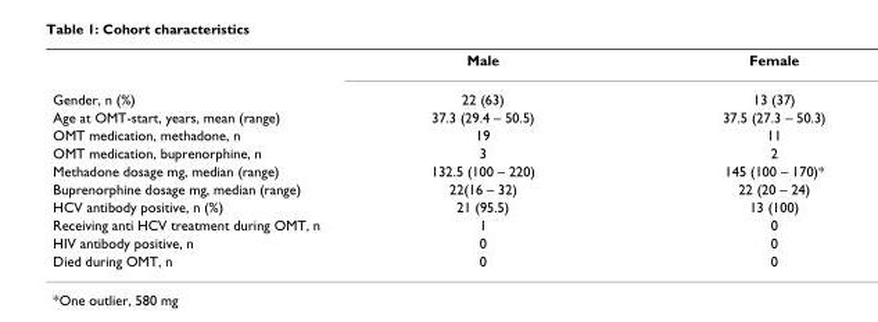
<table><thead><tr><td></td><td>Male</td><td>Female</td></tr></thead><tbody><tr><td>Gender, n (%)</td><td>22 (63)</td><td>13 (37)</td></tr><tr><td>Age at OMT-start, years, mean (range)</td><td>37.3 (29.4 – 50.5)</td><td>37.5 (27.3 – 50.3)</td></tr><tr><td>OMT medication, methadone, n</td><td>19</td><td>11</td></tr><tr><td>OMT medication, buprenorphine, n</td><td>3</td><td>2</td></tr><tr><td>Methadone dosage mg, median (range)</td><td>132.5 (100 – 220)</td><td>145 (100 – 170)*</td></tr><tr><td>Buprenorphine dosage mg, median (range)</td><td>22(16 – 32)</td><td>22 (20 – 24)</td></tr><tr><td>HCV antibody positive, n (%)</td><td>21 (95.5)</td><td>13 (100)</td></tr><tr><td>Receiving anti HCV treatment during OMT, n</td><td>1</td><td>0</td></tr><tr><td>HIV antibody positive, n</td><td>0</td><td>0</td></tr><tr><td>Died during OMT, n</td><td>0</td><td>0</td></tr></tbody></table>